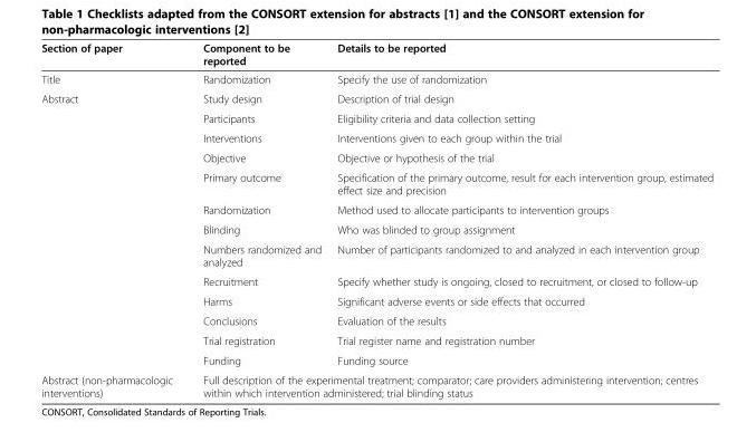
<table><thead><tr><td>Section of paper</td><td>Component to be reported</td><td>Details to be reported</td></tr></thead><tbody><tr><td>Title</td><td>Randomization</td><td>Specify the use of randomization</td></tr><tr><td rowspan="13">Abstract</td><td>Study design</td><td>Description of trial design</td></tr><tr><td>Participants</td><td>Eligibility criteria and data collection setting</td></tr><tr><td>Interventions</td><td>Interventions given to each group within the trial</td></tr><tr><td>Objective</td><td>Objective or hypothesis of the trial</td></tr><tr><td>Primary outcome</td><td>Specification of the primary outcome, result for each intervention group, estimated effect size and precision</td></tr><tr><td>Randomization</td><td>Method used to allocate participants to intervention groups</td></tr><tr><td>Blinding</td><td>Who was blinded to group assignment</td></tr><tr><td>Numbers randomized and analyzed</td><td>Number of participants randomized to and analyzed in each intervention group</td></tr><tr><td>Recruitment</td><td>Specify whether study is ongoing, closed to recruitment, or closed to follow-up</td></tr><tr><td>Harms</td><td>Significant adverse events or side effects that occurred</td></tr><tr><td>Conclusions</td><td>Evaluation of the results</td></tr><tr><td>Trial registration</td><td>Trial register name and registration number</td></tr><tr><td>Funding</td><td>Funding source</td></tr><tr><td>Abstract (non-pharmacologic interventions)</td><td colspan="2">Full description of the experimental treatment; comparator; care providers administering intervention; centres within which intervention administered; trial blinding status</td></tr></tbody></table>